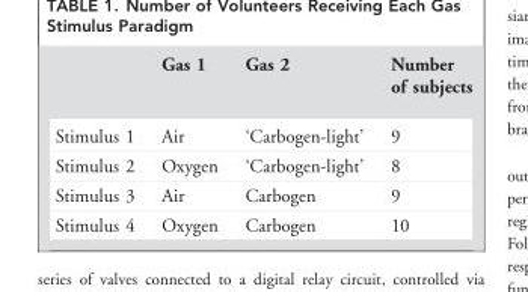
<table><thead><tr><td></td><td>Gas 1</td><td>Gas 2</td><td>Number of subjects</td></tr></thead><tbody><tr><td>Stimulus 1</td><td>Air</td><td>‘Carbogen-light’</td><td>9</td></tr><tr><td>Stimulus 2</td><td>Oxygen</td><td>‘Carbogen-light’</td><td>8</td></tr><tr><td>Stimulus 3</td><td>Air</td><td>Carbogen</td><td>9</td></tr><tr><td>Stimulus 4</td><td>Oxygen</td><td>Carbogen</td><td>10</td></tr></tbody></table>